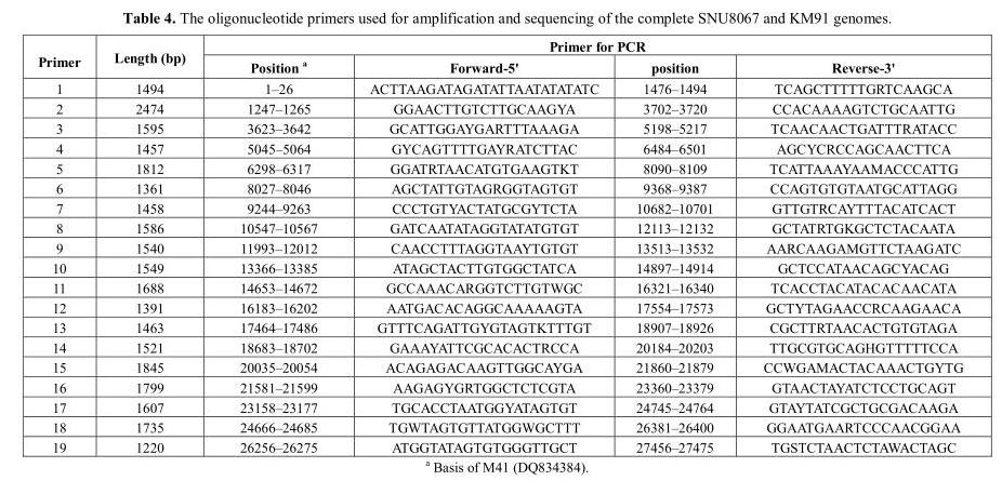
<table><thead><tr><td rowspan="2">Primer</td><td rowspan="2">Length (bp)</td><td colspan="4">Primer for PCR</td></tr><tr><td>Position <sup>a</sup></td><td>Forward-5&#x27;</td><td>position</td><td>Reverse-3&#x27;</td></tr></thead><tbody><tr><td>1</td><td>1494</td><td>1–26</td><td>ACTTAAGATAGATATTAATATATATC</td><td>1476–1494</td><td>TCAGCTTTTTGRTCAAGCA</td></tr><tr><td>2</td><td>2474</td><td>1247–1265</td><td>GGAACTTGTCTTGCAAGYA</td><td>3702–3720</td><td>CCACAAAAGTCTGCAATTG</td></tr><tr><td>3</td><td>1595</td><td>3623–3642</td><td>GCATTGGAYGARTTTAAAGA</td><td>5198–5217</td><td>TCAACAACTGATTTRATACC</td></tr><tr><td>4</td><td>1457</td><td>5045–5064</td><td>GYCAGTTTTGAYRATCTTAC</td><td>6484–6501</td><td>AGCYCRCCAGCAACTTCA</td></tr><tr><td>5</td><td>1812</td><td>6298–6317</td><td>GGATRTAACATGTGAAGTKT</td><td>8090–8109</td><td>TCATTAAAYAAMACCCATTG</td></tr><tr><td>6</td><td>1361</td><td>8027–8046</td><td>AGCTATTGTAGRGGTAGTGT</td><td>9368–9387</td><td>CCAGTGTGTAATGCATTAGG</td></tr><tr><td>7</td><td>1458</td><td>9244–9263</td><td>CCCTGTYACTATGCGYTCTA</td><td>10682–10701</td><td>GTTGTRCAYTTTACATCACT</td></tr><tr><td>8</td><td>1586</td><td>10547–10567</td><td>GATCAATATAGGTATATGTGT</td><td>12113–12132</td><td>GCTATRTGKGCTCTACAATA</td></tr><tr><td>9</td><td>1540</td><td>11993–12012</td><td>CAACCTTTAGGTAAYTGTGT</td><td>13513–13532</td><td>AARCAAGAMGTTCTAAGATC</td></tr><tr><td>10</td><td>1549</td><td>13366–13385</td><td>ATAGCTACTTGTGGCTATCA</td><td>14897–14914</td><td>GCTCCATAACAGCYACAG</td></tr><tr><td>11</td><td>1688</td><td>14653–14672</td><td>GCCAAACARGGTCTTGTWGC</td><td>16321–16340</td><td>TCACCTACATACACAACATA</td></tr><tr><td>12</td><td>1391</td><td>16183–16202</td><td>AATGACACAGGCAAAAAGTA</td><td>17554–17573</td><td>GCTYTAGAACCRCAAGAACA</td></tr><tr><td>13</td><td>1463</td><td>17464–17486</td><td>GTTTCAGATTGYGTAGTKTTTGT</td><td>18907–18926</td><td>CGCTTRTAACACTGTGTAGA</td></tr><tr><td>14</td><td>1521</td><td>18683–18702</td><td>GAAAYATTCGCACACTRCCA</td><td>20184–20203</td><td>TTGCGTGCAGHGTTTTTCCA</td></tr><tr><td>15</td><td>1845</td><td>20035–20054</td><td>ACAGAGACAAGTTGGCAYGA</td><td>21860–21879</td><td>CCWGAMACTACAAACTGYTG</td></tr><tr><td>16</td><td>1799</td><td>21581–21599</td><td>AAGAGYGRTGGCTCTCGTA</td><td>23360–23379</td><td>GTAACTAYATCTCCTGCAGT</td></tr><tr><td>17</td><td>1607</td><td>23158–23177</td><td>TGCACCTAATGGYATAGTGT</td><td>24745–24764</td><td>GTAYTATCGCTGCGACAAGA</td></tr><tr><td>18</td><td>1735</td><td>24666–24685</td><td>TGWTAGTGTTATGGWGCTTT</td><td>26381–26400</td><td>GGAATGAARTCCCAACGGAA</td></tr><tr><td>19</td><td>1220</td><td>26256–26275</td><td>ATGGTATAGTGTGGGTTGCT</td><td>27456–27475</td><td>TGSTCTAACTCTAWACTAGC</td></tr></tbody></table>